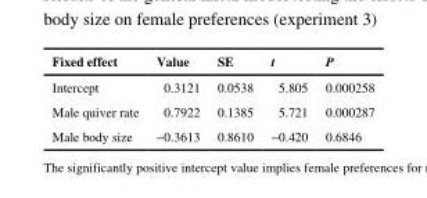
<table><thead><tr><td>Fixed effect</td><td>Value</td><td>SE</td><td>t</td><td>P</td></tr></thead><tbody><tr><td>Intercept</td><td>0.3121</td><td>0.0538</td><td>5.805</td><td>0.000258</td></tr><tr><td>Male quiver rate</td><td>0.7922</td><td>0.1385</td><td>5.721</td><td>0.000287</td></tr><tr><td>Male body size</td><td>−0.3613</td><td>0.8610</td><td>−0.420</td><td>0.6846</td></tr></tbody></table>